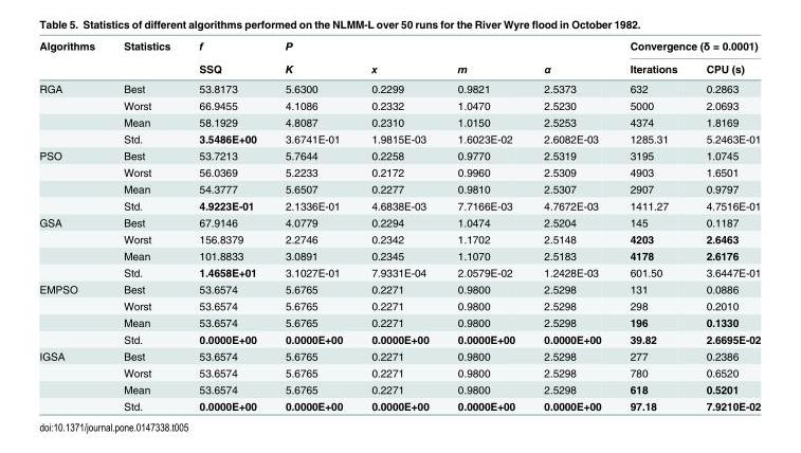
<table><thead><tr><td rowspan="2">Algorithms</td><td rowspan="2">Statistics</td><td rowspan="2">f SSQ</td><td rowspan="2">P K</td><td rowspan="2">x</td><td rowspan="2">m</td><td rowspan="2">α</td><td colspan="2">Convergence (δ = 0.0001)</td></tr><tr><td>Iterations</td><td>CPU (s)</td></tr></thead><tbody><tr><td rowspan="4">RGA</td><td>Best</td><td>53.8173</td><td>5.6300</td><td>0.2299</td><td>0.9821</td><td>2.5373</td><td>632</td><td>0.2863</td></tr><tr><td>Worst</td><td>66.9455</td><td>4.1086</td><td>0.2332</td><td>1.0470</td><td>2.5230</td><td>5000</td><td>2.0693</td></tr><tr><td>Mean</td><td>58.1929</td><td>4.8087</td><td>0.2310</td><td>1.0150</td><td>2.5253</td><td>4374</td><td>1.8169</td></tr><tr><td>Std.</td><td>3.5486E+00</td><td>3.6741E-01</td><td>1.9815E-03</td><td>1.6023E-02</td><td>2.6082E-03</td><td>1285.31</td><td>5.2463E-01</td></tr><tr><td rowspan="4">PSO</td><td>Best</td><td>53.7213</td><td>5.7644</td><td>0.2258</td><td>0.9770</td><td>2.5319</td><td>3195</td><td>1.0745</td></tr><tr><td>Worst</td><td>56.0369</td><td>5.2233</td><td>0.2172</td><td>0.9960</td><td>2.5309</td><td>4903</td><td>1.6501</td></tr><tr><td>Mean</td><td>54.3777</td><td>5.6507</td><td>0.2277</td><td>0.9810</td><td>2.5307</td><td>2907</td><td>0.9797</td></tr><tr><td>Std.</td><td>4.9223E-01</td><td>2.1336E-01</td><td>4.6838E-03</td><td>7.7166E-03</td><td>4.7672E-03</td><td>1411.27</td><td>4.7516E-01</td></tr><tr><td rowspan="4">GSA</td><td>Best</td><td>67.9146</td><td>4.0779</td><td>0.2294</td><td>1.0474</td><td>2.5204</td><td>145</td><td>0.1187</td></tr><tr><td>Worst</td><td>156.8379</td><td>2.2746</td><td>0.2342</td><td>1.1702</td><td>2.5148</td><td>4203</td><td>2.6463</td></tr><tr><td>Mean</td><td>101.8833</td><td>3.0891</td><td>0.2345</td><td>1.1070</td><td>2.5183</td><td>4178</td><td>2.6176</td></tr><tr><td>Std.</td><td>1.4658E+01</td><td>3.1027E-01</td><td>7.9331E-04</td><td>2.0579E-02</td><td>1.2428E-03</td><td>601.50</td><td>3.6447E-01</td></tr><tr><td rowspan="4">EMPSO</td><td>Best</td><td>53.6574</td><td>5.6765</td><td>0.2271</td><td>0.9800</td><td>2.5298</td><td>131</td><td>0.0886</td></tr><tr><td>Worst</td><td>53.6574</td><td>5.6765</td><td>0.2271</td><td>0.9800</td><td>2.5298</td><td>298</td><td>0.2010</td></tr><tr><td>Mean</td><td>53.6574</td><td>5.6765</td><td>0.2271</td><td>0.9800</td><td>2.5298</td><td>196</td><td>0.1330</td></tr><tr><td>Std.</td><td>0.0000E+00</td><td>0.0000E+00</td><td>0.0000E+00</td><td>0.0000E+00</td><td>0.0000E+00</td><td>39.82</td><td>2.6695E-02</td></tr><tr><td rowspan="4">IGSA</td><td>Best</td><td>53.6574</td><td>5.6765</td><td>0.2271</td><td>0.9800</td><td>2.5298</td><td>277</td><td>0.2386</td></tr><tr><td>Worst</td><td>53.6574</td><td>5.6765</td><td>0.2271</td><td>0.9800</td><td>2.5298</td><td>780</td><td>0.6520</td></tr><tr><td>Mean</td><td>53.6574</td><td>5.6765</td><td>0.2271</td><td>0.9800</td><td>2.5298</td><td>618</td><td>0.5201</td></tr><tr><td>Std.</td><td>0.0000E+00</td><td>0.0000E+00</td><td>0.0000E+00</td><td>0.0000E+00</td><td>0.0000E+00</td><td>97.18</td><td>7.9210E-02</td></tr></tbody></table>